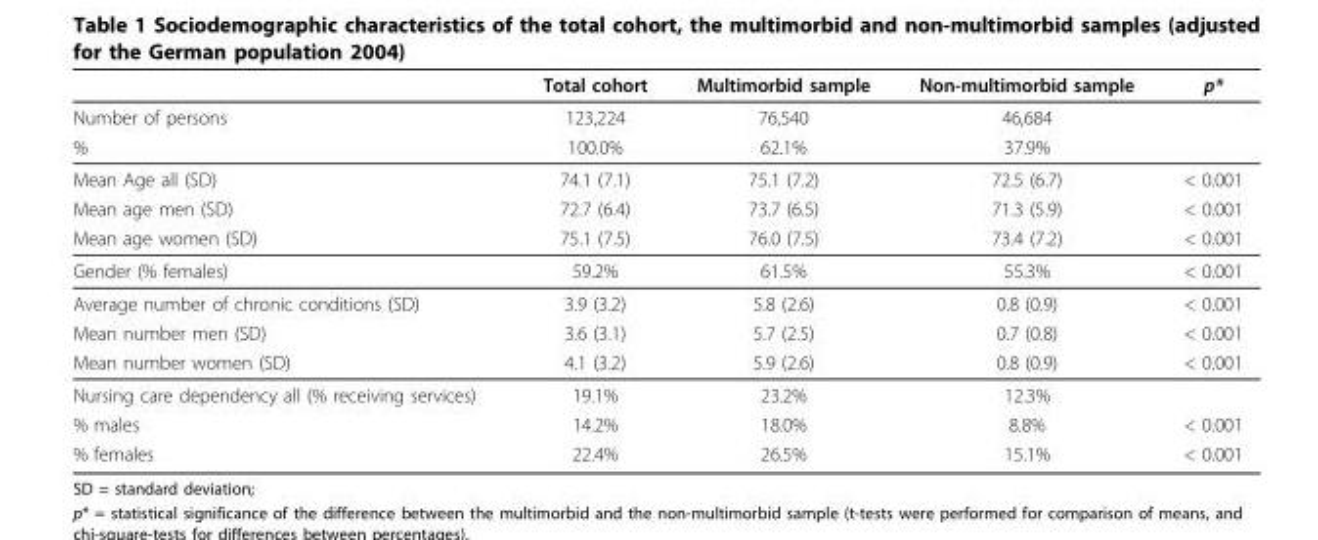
<table><thead><tr><td></td><td>Total cohort</td><td>Multimorbid sample</td><td>Non-multimorbid sample</td><td>p*</td></tr></thead><tbody><tr><td>Number of persons</td><td>123,224</td><td>76,540</td><td>46,684</td><td></td></tr><tr><td>%</td><td>100.0%</td><td>62.1%</td><td>37.9%</td><td></td></tr><tr><td>Mean Age all (SD)</td><td>74.1 (7.1)</td><td>75.1 (7.2)</td><td>72.5 (6.7)</td><td>&lt; 0.001</td></tr><tr><td>Mean age men (SD)</td><td>72.7 (6.4)</td><td>73.7 (6.5)</td><td>71.3 (5.9)</td><td>&lt; 0.001</td></tr><tr><td>Mean age women (SD)</td><td>75.1 (7.5)</td><td>76.0 (7.5)</td><td>73.4 (7.2)</td><td>&lt; 0.001</td></tr><tr><td>Gender (% females)</td><td>59.2%</td><td>61.5%</td><td>55.3%</td><td>&lt; 0.001</td></tr><tr><td>Average number of chronic conditions (SD)</td><td>3.9 (3.2)</td><td>5.8 (2.6)</td><td>0.8 (0.9)</td><td>&lt; 0.001</td></tr><tr><td>Mean number men (SD)</td><td>3.6 (3.1)</td><td>5.7 (2.5)</td><td>0.7 (0.8)</td><td>&lt; 0.001</td></tr><tr><td>Mean number women (SD)</td><td>4.1 (3.2)</td><td>5.9 (2.6)</td><td>0.8 (0.9)</td><td>&lt; 0.001</td></tr><tr><td>Nursing care dependency all (% receiving services)</td><td>19.1%</td><td>23.2%</td><td>12.3%</td><td></td></tr><tr><td>% males</td><td>14.2%</td><td>18.0%</td><td>8.8%</td><td>&lt; 0.001</td></tr><tr><td>% females</td><td>22.4%</td><td>26.5%</td><td>15.1%</td><td>&lt; 0.001</td></tr></tbody></table>